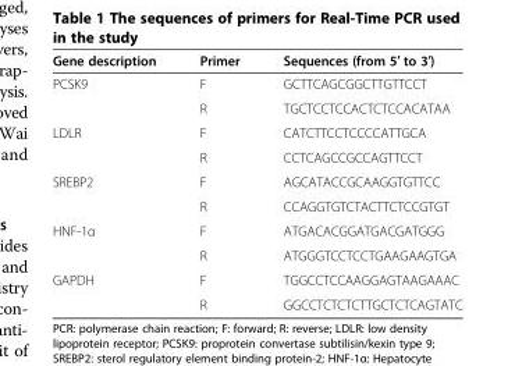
<table><thead><tr><td>Gene description</td><td>Primer</td><td>Sequences (from 5′ to 3′)</td></tr></thead><tbody><tr><td rowspan="2">PCSK9</td><td>F</td><td>GCTTCAGCGGCTTGTTCCT</td></tr><tr><td>R</td><td>TGCTCCTCCACTCTCCACATAA</td></tr><tr><td rowspan="2">LDLR</td><td>F</td><td>CATCTTCCTCCCCATTGCA</td></tr><tr><td>R</td><td>CCTCAGCCGCCAGTTCCT</td></tr><tr><td rowspan="2">SREBP2</td><td>F</td><td>AGCATACCGCAAGGTGTTCC</td></tr><tr><td>R</td><td>CCAGGTGTCTACTTCTCCGTGT</td></tr><tr><td rowspan="2">HNF-1α</td><td>F</td><td>ATGACACGGATGACGATGGG</td></tr><tr><td>R</td><td>ATGGGTCCTCCTGAAGAAGTGA</td></tr><tr><td rowspan="2">GAPDH</td><td>F</td><td>TGGCCTCCAAGGAGTAAGAAAC</td></tr><tr><td>R</td><td>GGCCTCTCTCTTGCTCTCAGTATC</td></tr></tbody></table>